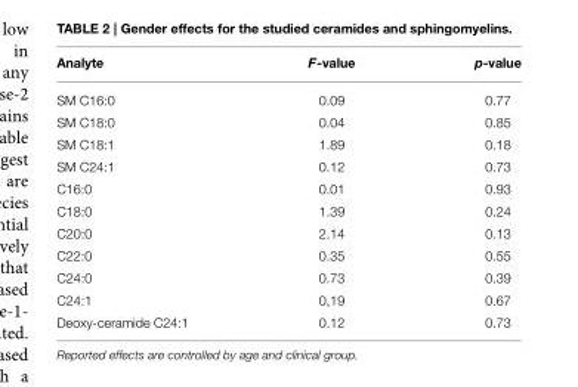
<table><thead><tr><td>Analyte</td><td>F-value</td><td>p-value</td></tr></thead><tbody><tr><td>SM C16:0</td><td>0.09</td><td>0.77</td></tr><tr><td>SM C18:0</td><td>0.04</td><td>0.85</td></tr><tr><td>SM C18:1</td><td>1.89</td><td>0.18</td></tr><tr><td>SM C24:1</td><td>0.12</td><td>0.73</td></tr><tr><td>C16:0</td><td>0.01</td><td>0.93</td></tr><tr><td>C18:0</td><td>1.39</td><td>0.24</td></tr><tr><td>C20:0</td><td>2.14</td><td>0.13</td></tr><tr><td>C22:0</td><td>0.35</td><td>0.55</td></tr><tr><td>C24:0</td><td>0.73</td><td>0.39</td></tr><tr><td>C24:1</td><td>0,19</td><td>0.67</td></tr><tr><td>Deoxy-ceramide C24:1</td><td>0.12</td><td>0.73</td></tr></tbody></table>